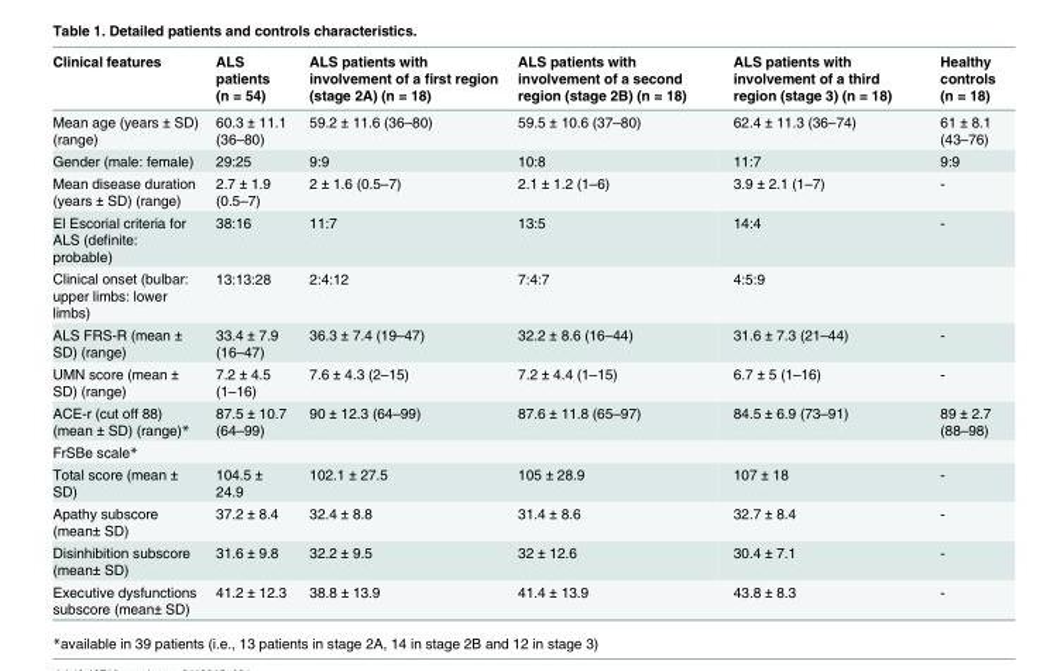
<table><thead><tr><td>Clinical features</td><td>ALS patients (n = 54)</td><td>ALS patients with involvement of a first region (stage 2A) (n = 18)</td><td>ALS patients with involvement of a second region (stage 2B) (n = 18)</td><td>ALS patients with involvement of a third region (stage 3) (n = 18)</td><td>Healthy controls (n = 18)</td></tr></thead><tbody><tr><td>Mean age (years ± SD) (range)</td><td>60.3 ± 11.1 (36–80)</td><td>59.2 ± 11.6 (36–80)</td><td>59.5 ± 10.6 (37–80)</td><td>62.4 ± 11.3 (36–74)</td><td>61 ± 8.1 (43–76)</td></tr><tr><td>Gender (male: female)</td><td>29:25</td><td>9:9</td><td>10:8</td><td>11:7</td><td>9:9</td></tr><tr><td>Mean disease duration (years ± SD) (range)</td><td>2.7 ± 1.9 (0.5–7)</td><td>2 ± 1.6 (0.5–7)</td><td>2.1 ± 1.2 (1–6)</td><td>3.9 ± 2.1 (1–7)</td><td>-</td></tr><tr><td>El Escorial criteria for ALS (definite: probable)</td><td>38:16</td><td>11:7</td><td>13:5</td><td>14:4</td><td>-</td></tr><tr><td>Clinical onset (bulbar: upper limbs: lower limbs)</td><td>13:13:28</td><td>2:4:12</td><td>7:4:7</td><td>4:5:9</td><td></td></tr><tr><td>ALS FRS-R (mean ± SD) (range)</td><td>33.4 ± 7.9 (16–47)</td><td>36.3 ± 7.4 (19–47)</td><td>32.2 ± 8.6 (16–44)</td><td>31.6 ± 7.3 (21–44)</td><td>-</td></tr><tr><td>UMN score (mean ± SD) (range)</td><td>7.2 ± 4.5 (1–16)</td><td>7.6 ± 4.3 (2–15)</td><td>7.2 ± 4.4 (1–15)</td><td>6.7 ± 5 (1–16)</td><td>-</td></tr><tr><td>ACE-r (cut off 88) (mean ± SD) (range)*</td><td>87.5 ± 10.7 (64–99)</td><td>90 ± 12.3 (64–99)</td><td>87.6 ± 11.8 (65–97)</td><td>84.5 ± 6.9 (73–91)</td><td>89 ± 2.7 (88–98)</td></tr><tr><td colspan="6">FrSBe scale*</td></tr><tr><td>Total score (mean ± SD)</td><td>104.5 ± 24.9</td><td>102.1 ± 27.5</td><td>105 ± 28.9</td><td>107 ± 18</td><td>-</td></tr><tr><td>Apathy subscore (mean± SD)</td><td>37.2 ± 8.4</td><td>32.4 ± 8.8</td><td>31.4 ± 8.6</td><td>32.7 ± 8.4</td><td>-</td></tr><tr><td>Disinhibition subscore (mean± SD)</td><td>31.6 ± 9.8</td><td>32.2 ± 9.5</td><td>32 ± 12.6</td><td>30.4 ± 7.1</td><td>-</td></tr><tr><td>Executive dysfunctions subscore (mean± SD)</td><td>41.2 ± 12.3</td><td>38.8 ± 13.9</td><td>41.4 ± 13.9</td><td>43.8 ± 8.3</td><td>-</td></tr></tbody></table>